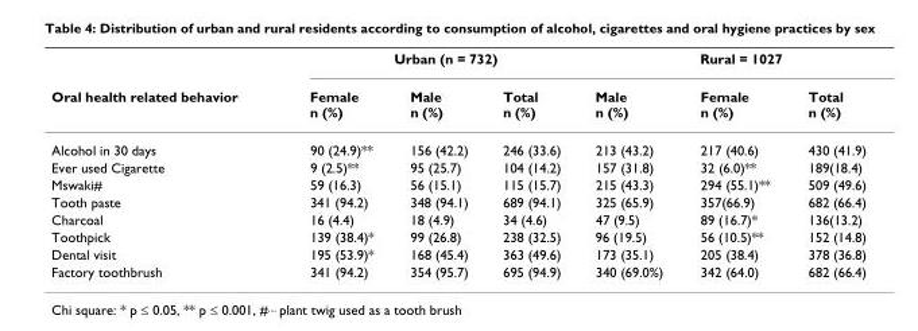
<table><thead><tr><td rowspan="2">Oral health related behavior</td><td colspan="3">Urban (n = 732)</td><td colspan="3">Rural = 1027</td></tr><tr><td>Female n (%)</td><td>Male n (%)</td><td>Total n (%)</td><td>Male n (%)</td><td>Female n (%)</td><td>Total n (%)</td></tr></thead><tbody><tr><td>Alcohol in 30 days</td><td>90 (24.9)**</td><td>156 (42.2)</td><td>246 (33.6)</td><td>213 (43.2)</td><td>217 (40.6)</td><td>430 (41.9)</td></tr><tr><td>Ever used Cigarette</td><td>9 (2.5)**</td><td>95 (25.7)</td><td>104 (14.2)</td><td>157 (31.8)</td><td>32 (6.0)**</td><td>189(18.4)</td></tr><tr><td>Mswaki#</td><td>59 (16.3)</td><td>56 (15.1)</td><td>115 (15.7)</td><td>215 (43.3)</td><td>294 (55.1)**</td><td>509 (49.6)</td></tr><tr><td>Tooth paste</td><td>341 (94.2)</td><td>348 (94.1)</td><td>689 (94.1)</td><td>325 (65.9)</td><td>357(66.9)</td><td>682 (66.4)</td></tr><tr><td>Charcoal</td><td>16 (4.4)</td><td>18 (4.9)</td><td>34 (4.6)</td><td>47 (9.5)</td><td>89 (16.7)*</td><td>136(13.2)</td></tr><tr><td>Toothpick</td><td>139 (38.4)*</td><td>99 (26.8)</td><td>238 (32.5)</td><td>96 (19.5)</td><td>56 (10.5)**</td><td>152 (14.8)</td></tr><tr><td>Dental visit</td><td>195 (53.9)*</td><td>168 (45.4)</td><td>363 (49.6)</td><td>173 (35.1)</td><td>205 (38.4)</td><td>378 (36.8)</td></tr><tr><td>Factory toothbrush</td><td>341 (94.2)</td><td>354 (95.7)</td><td>695 (94.9)</td><td>340 (69.0%)</td><td>342 (64.0)</td><td>682 (66.4)</td></tr></tbody></table>